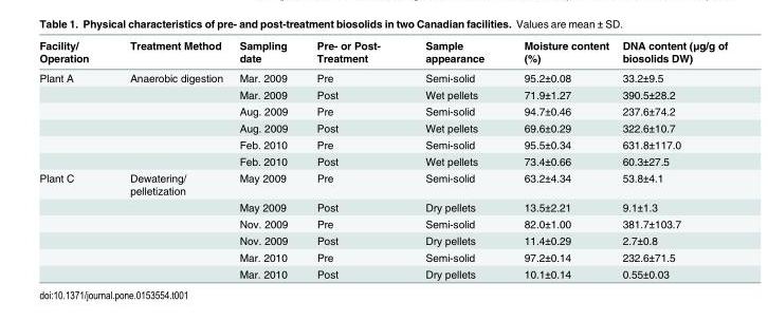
<table><thead><tr><td>Facility/ Operation</td><td>Treatment Method</td><td>Sampling date</td><td>Pre- or Post- Treatment</td><td>Sample appearance</td><td>Moisture content (%)</td><td>DNA content (μg/g of biosolids DW)</td></tr></thead><tbody><tr><td rowspan="6">Plant A</td><td>Anaerobic digestion</td><td>Mar. 2009</td><td>Pre</td><td>Semi-solid</td><td>95.2±0.08</td><td>33.2±9.5</td></tr><tr><td></td><td>Mar. 2009</td><td>Post</td><td>Wet pellets</td><td>71.9±1.27</td><td>390.5±28.2</td></tr><tr><td></td><td>Aug. 2009</td><td>Pre</td><td>Semi-solid</td><td>94.7±0.46</td><td>237.6±74.2</td></tr><tr><td></td><td>Aug. 2009</td><td>Post</td><td>Wet pellets</td><td>69.6±0.29</td><td>322.6±10.7</td></tr><tr><td></td><td>Feb. 2010</td><td>Pre</td><td>Semi-solid</td><td>95.5±0.34</td><td>631.8±117.0</td></tr><tr><td></td><td>Feb. 2010</td><td>Post</td><td>Wet pellets</td><td>73.4±0.66</td><td>60.3±27.5</td></tr><tr><td rowspan="6">Plant C</td><td>Dewatering/ pelletization</td><td>May 2009</td><td>Pre</td><td>Semi-solid</td><td>63.2±4.34</td><td>53.8±4.1</td></tr><tr><td></td><td>May 2009</td><td>Post</td><td>Dry pellets</td><td>13.5±2.21</td><td>9.1±1.3</td></tr><tr><td></td><td>Nov. 2009</td><td>Pre</td><td>Semi-solid</td><td>82.0±1.00</td><td>381.7±103.7</td></tr><tr><td></td><td>Nov. 2009</td><td>Post</td><td>Dry pellets</td><td>11.4±0.29</td><td>2.7±0.8</td></tr><tr><td></td><td>Mar. 2010</td><td>Pre</td><td>Semi-solid</td><td>97.2±0.14</td><td>232.6±71.5</td></tr><tr><td></td><td>Mar. 2010</td><td>Post</td><td>Dry pellets</td><td>10.1±0.14</td><td>0.55±0.03</td></tr></tbody></table>